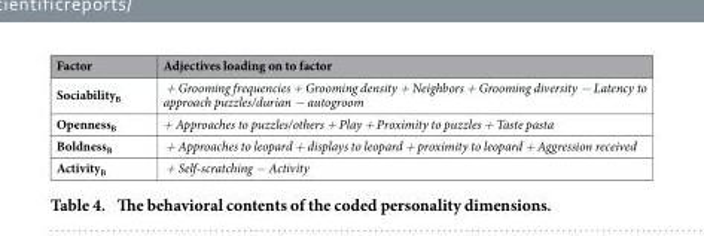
<table><thead><tr><td>Factor</td><td>Adjectives loading on to factor</td></tr></thead><tbody><tr><td>Sociability<sub>B</sub></td><td>+ Grooming frequencies + Grooming density + Neighbors + Grooming diversity − Latency to approach puzzles/durian − autogroom</td></tr><tr><td>Openness<sub>B</sub></td><td>+ Approaches to puzzles/others + Play + Proximity to puzzles + Taste pasta</td></tr><tr><td>Boldness<sub>B</sub></td><td>+ Approaches to leopard + displays to leopard + proximity to leopard + Aggression received</td></tr><tr><td>Activity<sub>B</sub></td><td>+ Self-scratching − Activity</td></tr></tbody></table>